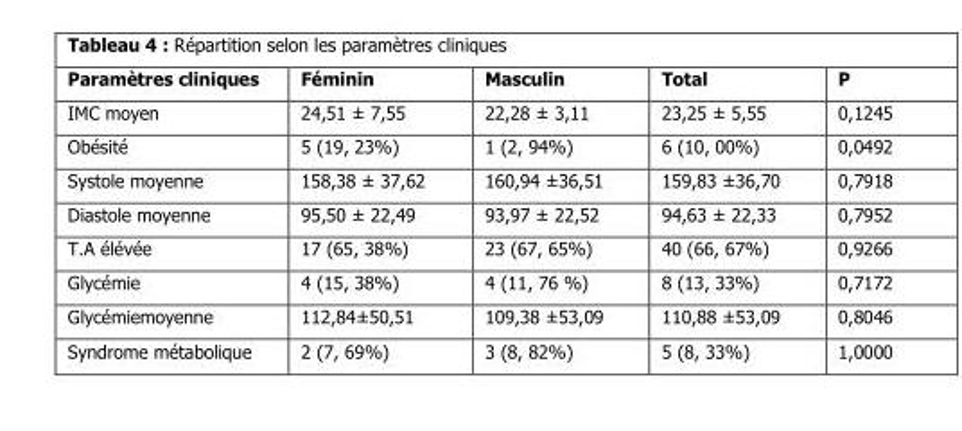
<table><thead><tr><td>Paramètres cliniques</td><td>Féminin</td><td>Masculin</td><td>Total</td><td>P</td></tr></thead><tbody><tr><td>IMC moyen</td><td>24,51 ± 7,55</td><td>22,28 ± 3,11</td><td>23,25 ± 5,55</td><td>0,1245</td></tr><tr><td>Obésité</td><td>5 (19, 23%)</td><td>1 (2, 94%)</td><td>6 (10, 00%)</td><td>0,0492</td></tr><tr><td>Systole moyenne</td><td>158,38 ± 37,62</td><td>160,94 ±36,51</td><td>159,83 ±36,70</td><td>0,7918</td></tr><tr><td>Diastole moyenne</td><td>95,50 ± 22,49</td><td>93,97 ± 22,52</td><td>94,63 ± 22,33</td><td>0,7952</td></tr><tr><td>T.A élévée</td><td>17 (65, 38%)</td><td>23 (67, 65%)</td><td>40 (66, 67%)</td><td>0,9266</td></tr><tr><td>Glycémie</td><td>4 (15, 38%)</td><td>4 (11, 76 %)</td><td>8 (13, 33%)</td><td>0,7172</td></tr><tr><td>Glycémiemoyenne</td><td>112,84±50,51</td><td>109,38 ±53,09</td><td>110,88 ±53,09</td><td>0,8046</td></tr><tr><td>Syndrome métabolique</td><td>2 (7, 69%)</td><td>3 (8, 82%)</td><td>5 (8, 33%)</td><td>1,0000</td></tr></tbody></table>